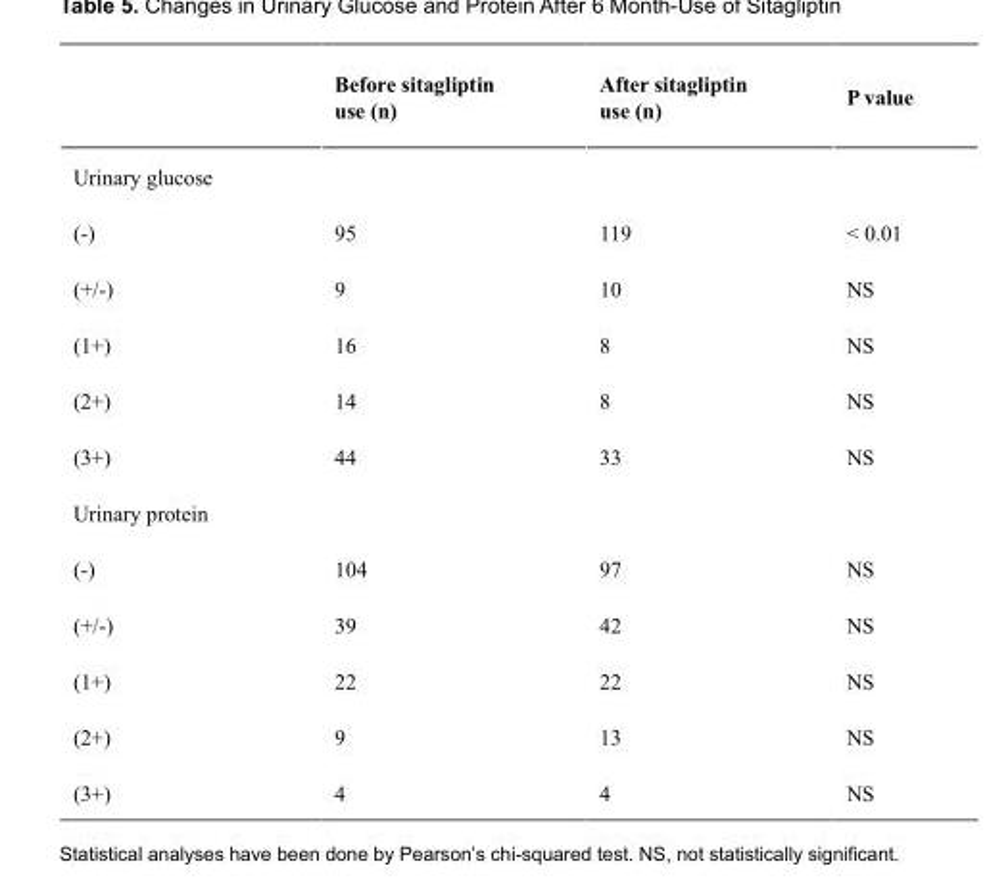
<table><thead><tr><td></td><td>Before sitagliptin use (n)</td><td>After sitagliptin use (n)</td><td>P value</td></tr></thead><tbody><tr><td colspan="4">Urinary glucose</td></tr><tr><td>(-)</td><td>95</td><td>119</td><td>&lt; 0.01</td></tr><tr><td>(+/-)</td><td>9</td><td>10</td><td>NS</td></tr><tr><td>(1+)</td><td>16</td><td>8</td><td>NS</td></tr><tr><td>(2+)</td><td>14</td><td>8</td><td>NS</td></tr><tr><td>(3+)</td><td>44</td><td>33</td><td>NS</td></tr><tr><td colspan="4">Urinary protein</td></tr><tr><td>(-)</td><td>104</td><td>97</td><td>NS</td></tr><tr><td>(+/-)</td><td>39</td><td>42</td><td>NS</td></tr><tr><td>(1+)</td><td>22</td><td>22</td><td>NS</td></tr><tr><td>(2+)</td><td>9</td><td>13</td><td>NS</td></tr><tr><td>(3+)</td><td>4</td><td>4</td><td>NS</td></tr></tbody></table>